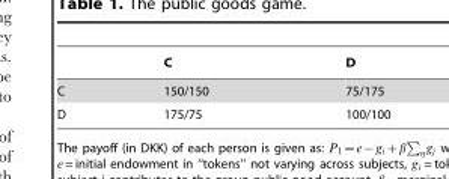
<table><thead><tr><td></td><td>C</td><td>D</td></tr></thead><tbody><tr><td>C</td><td>150/150</td><td>75/175</td></tr><tr><td>D</td><td>175/75</td><td>100/100</td></tr></tbody></table>